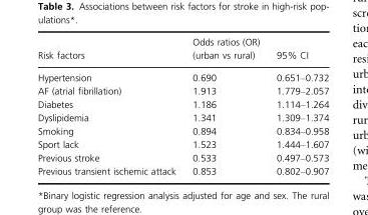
<table><thead><tr><td rowspan="2">Risk factors</td><td rowspan="2">Odds ratios (OR) (urban vs rural)</td><td rowspan="2">95% CI</td></tr><tr></tr></thead><tbody><tr><td>Hypertension</td><td>0.690</td><td>0.651–0.732</td></tr><tr><td>AF (atrial fibrillation)</td><td>1.913</td><td>1.779–2.057</td></tr><tr><td>Diabetes</td><td>1.186</td><td>1.114–1.264</td></tr><tr><td>Dyslipidemia</td><td>1.341</td><td>1.309–1.374</td></tr><tr><td>Smoking</td><td>0.894</td><td>0.834–0.958</td></tr><tr><td>Sport lack</td><td>1.523</td><td>1.444–1.607</td></tr><tr><td>Previous stroke</td><td>0.533</td><td>0.497–0.573</td></tr><tr><td>Previous transient ischemic attack</td><td>0.853</td><td>0.802–0.907</td></tr></tbody></table>